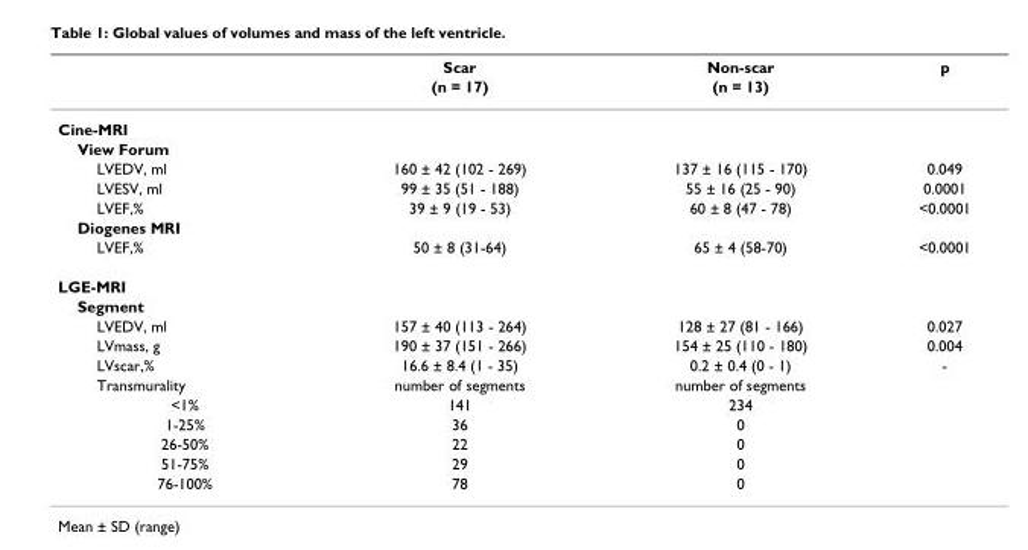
<table><thead><tr><td rowspan="2"></td><td rowspan="2">Scar (n = 17)</td><td rowspan="2">Non-scar (n = 13)</td><td rowspan="2">p</td></tr><tr></tr></thead><tbody><tr><td colspan="4">Cine-MRI</td></tr><tr><td colspan="4">View Forum</td></tr><tr><td>LVEDV, ml</td><td>160 ± 42 (102 - 269)</td><td>137 ± 16 (115 - 170)</td><td>0.049</td></tr><tr><td>LVESV, ml</td><td>99 ± 35 (51 - 188)</td><td>55 ± 16 (25 - 90)</td><td>0.0001</td></tr><tr><td>LVEF,%</td><td>39 ± 9 (19 - 53)</td><td>60 ± 8 (47 - 78)</td><td>&lt;0.0001</td></tr><tr><td colspan="4">Diogenes MRI</td></tr><tr><td>LVEF,%</td><td>50 ± 8 (31-64)</td><td>65 ± 4 (58-70)</td><td>&lt;0.0001</td></tr><tr><td colspan="4">LGE-MRI</td></tr><tr><td colspan="4">Segment</td></tr><tr><td>LVEDV, ml</td><td>157 ± 40 (113 - 264)</td><td>128 ± 27 (81 - 166)</td><td>0.027</td></tr><tr><td>LVmass, g</td><td>190 ± 37 (151 - 266)</td><td>154 ± 25 (110 - 180)</td><td>0.004</td></tr><tr><td>LVscar,%</td><td>16.6 ± 8.4 (1 - 35)</td><td>0.2 ± 0.4 (0 - 1)</td><td>-</td></tr><tr><td>Transmurality</td><td>number of segments</td><td>number of segments</td><td></td></tr><tr><td>&lt;1%</td><td>141</td><td>234</td><td></td></tr><tr><td>1-25%</td><td>36</td><td>0</td><td></td></tr><tr><td>26-50%</td><td>22</td><td>0</td><td></td></tr><tr><td>51-75%</td><td>29</td><td>0</td><td></td></tr><tr><td>76-100%</td><td>78</td><td>0</td><td></td></tr></tbody></table>